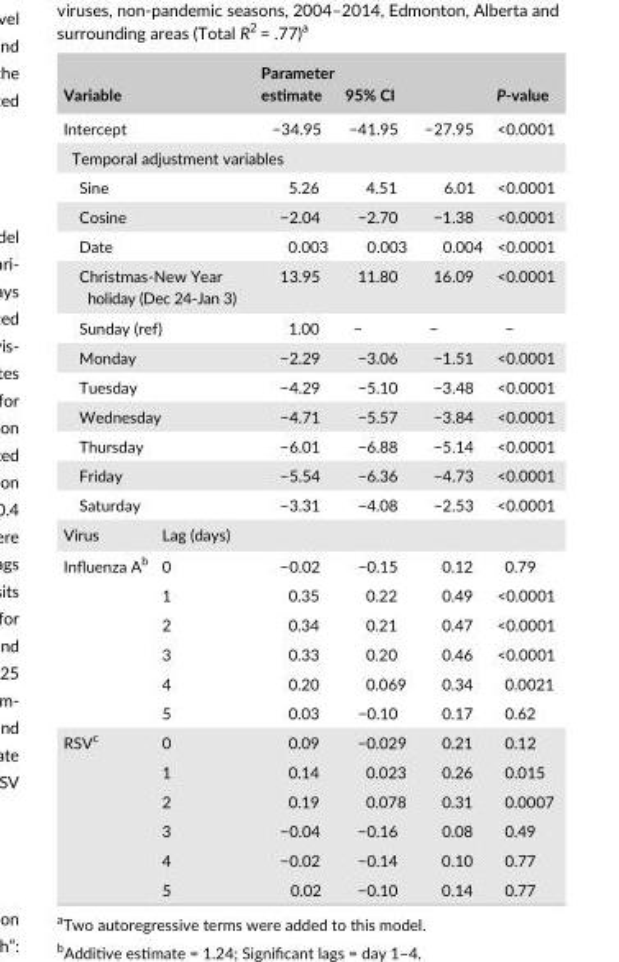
<table><thead><tr><td colspan="2">Variable</td><td>Parameter estimate</td><td colspan="2">95%CI</td><td>P-value</td></tr></thead><tbody><tr><td colspan="2">Intercept</td><td>−34.95</td><td>−41.95</td><td>−27.95</td><td>&lt;0.0001</td></tr><tr><td colspan="6">Temporal adjustment variables</td></tr><tr><td colspan="2">Sine</td><td>5.26</td><td>4.51</td><td>6.01</td><td>&lt;0.0001</td></tr><tr><td colspan="2">Cosine</td><td>−2.04</td><td>−2.70</td><td>−1.38</td><td>&lt;0.0001</td></tr><tr><td colspan="2">Date</td><td>0.003</td><td>0.003</td><td>0.004</td><td>&lt;0.0001</td></tr><tr><td colspan="2">Christmas- New Year holiday (Dec 24- Jan 3)</td><td>13.95</td><td>11.80</td><td>16.09</td><td>&lt;0.0001</td></tr><tr><td colspan="2">Sunday (ref)</td><td>1.00</td><td>−</td><td>−</td><td>−</td></tr><tr><td colspan="2">Monday</td><td>−2.29</td><td>−3.06</td><td>−1.51</td><td>&lt;0.0001</td></tr><tr><td colspan="2">Tuesday</td><td>−4.29</td><td>−5.10</td><td>−3.48</td><td>&lt;0.0001</td></tr><tr><td colspan="2">Wednesday</td><td>−4.71</td><td>−5.57</td><td>−3.84</td><td>&lt;0.0001</td></tr><tr><td colspan="2">Thursday</td><td>−6.01</td><td>−6.88</td><td>−5.14</td><td>&lt;0.0001</td></tr><tr><td colspan="2">Friday</td><td>−5.54</td><td>−6.36</td><td>−4.73</td><td>&lt;0.0001</td></tr><tr><td colspan="2">Saturday</td><td>−3.31</td><td>−4.08</td><td>−2.53</td><td>&lt;0.0001</td></tr><tr><td>Virus</td><td>Lag (days)</td><td></td><td></td><td></td><td></td></tr><tr><td rowspan="6">Influenza A<sup>b</sup></td><td>0</td><td>−0.02</td><td>−0.15</td><td>0.12</td><td>0.79</td></tr><tr><td>1</td><td>0.35</td><td>0.22</td><td>0.49</td><td>&lt;0.0001</td></tr><tr><td>2</td><td>0.34</td><td>0.21</td><td>0.47</td><td>&lt;0.0001</td></tr><tr><td>3</td><td>0.33</td><td>0.20</td><td>0.46</td><td>&lt;0.0001</td></tr><tr><td>4</td><td>0.20</td><td>0.069</td><td>0.34</td><td>0.0021</td></tr><tr><td>5</td><td>0.03</td><td>−0.10</td><td>0.17</td><td>0.62</td></tr><tr><td rowspan="6">RSV<sup>c</sup></td><td>0</td><td>0.09</td><td>−0.029</td><td>0.21</td><td>0.12</td></tr><tr><td>1</td><td>0.14</td><td>0.023</td><td>0.26</td><td>0.015</td></tr><tr><td>2</td><td>0.19</td><td>0.078</td><td>0.31</td><td>0.0007</td></tr><tr><td>3</td><td>−0.04</td><td>−0.16</td><td>0.08</td><td>0.49</td></tr><tr><td>4</td><td>−0.02</td><td>−0.14</td><td>0.10</td><td>0.77</td></tr><tr><td>5</td><td>0.02</td><td>−0.10</td><td>0.14</td><td>0.77</td></tr></tbody></table>